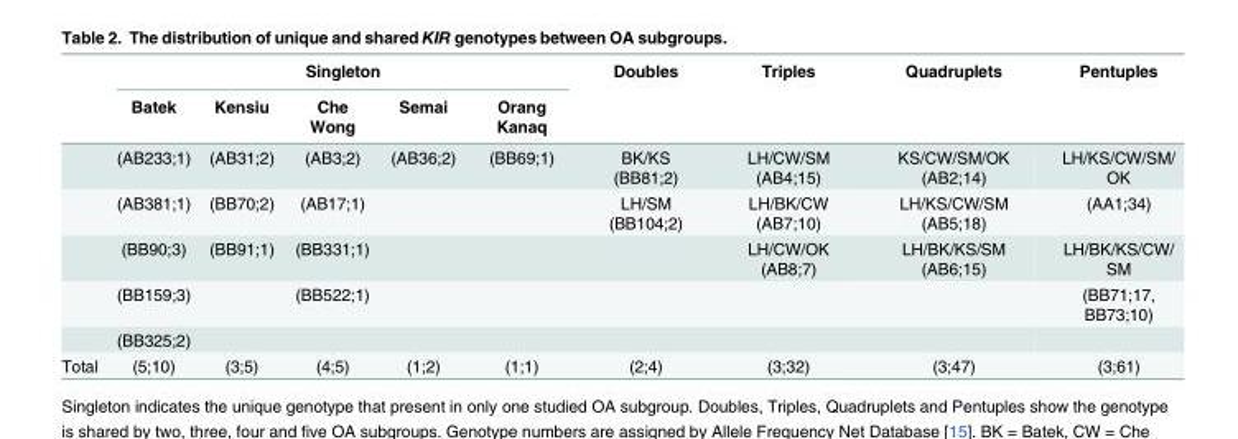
<table><thead><tr><td rowspan="2"></td><td colspan="5">Singleton</td><td rowspan="2">Doubles</td><td rowspan="2">Triples</td><td rowspan="2">Quadruplets</td><td rowspan="2">Pentuples</td></tr><tr><td>Batek</td><td>Kensiu</td><td>Che Wong</td><td>Semai</td><td>Orang Kanaq</td></tr></thead><tbody><tr><td></td><td>(AB233;1)</td><td>(AB31;2)</td><td>(AB3;2)</td><td>(AB36;2)</td><td>(BB69;1)</td><td>BK/KS (BB81;2)</td><td>LH/CW/SM (AB4;15)</td><td>KS/CW/SM/OK (AB2;14)</td><td>LH/KS/CW/SM/ OK</td></tr><tr><td></td><td>(AB381;1)</td><td>(BB70;2)</td><td>(AB17;1)</td><td></td><td></td><td>LH/SM (BB104;2)</td><td>LH/BK/CW (AB7;10)</td><td>LH/KS/CW/SM (AB5;18)</td><td>(AA1;34)</td></tr><tr><td></td><td>(BB90;3)</td><td>(BB91;1)</td><td>(BB331;1)</td><td></td><td></td><td></td><td>LH/CW/OK (AB8;7)</td><td>LH/BK/KS/SM (AB6;15)</td><td>LH/BK/KS/CW/ SM</td></tr><tr><td></td><td>(BB159;3)</td><td></td><td>(BB522;1)</td><td></td><td></td><td></td><td></td><td></td><td>(BB71;17, BB73;10)</td></tr><tr><td></td><td>(BB325;2)</td><td></td><td></td><td></td><td></td><td></td><td></td><td></td><td></td></tr><tr><td>Total</td><td>(5;10)</td><td>(3;5)</td><td>(4;5)</td><td>(1;2)</td><td>(1;1)</td><td>(2;4)</td><td>(3;32)</td><td>(3;47)</td><td>(3;61)</td></tr></tbody></table>